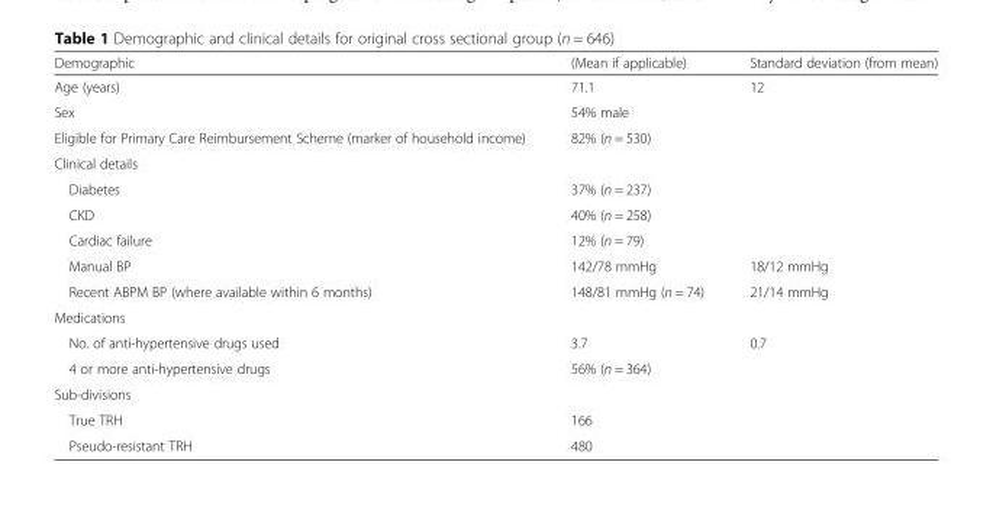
<table><thead><tr><td>Demographic</td><td>(Mean if applicable)</td><td>Standard deviation (from mean)</td></tr></thead><tbody><tr><td>Age (years)</td><td>71.1</td><td>12</td></tr><tr><td>Sex</td><td>54% male</td><td></td></tr><tr><td>Eligible for Primary Care Reimbursement Scheme (marker of household income)</td><td>82% (n = 530)</td><td></td></tr><tr><td colspan="3">Clinical details</td></tr><tr><td>Diabetes</td><td>37% (n = 237)</td><td></td></tr><tr><td>CKD</td><td>40% (n = 258)</td><td></td></tr><tr><td>Cardiac failure</td><td>12% (n = 79)</td><td></td></tr><tr><td>Manual BP</td><td>142/78 mmHg</td><td>18/12 mmHg</td></tr><tr><td>Recent ABPM BP (where available within 6 months)</td><td>148/81 mmHg (n = 74)</td><td>21/14 mmHg</td></tr><tr><td colspan="3">Medications</td></tr><tr><td>No. of anti-hypertensive drugs used</td><td>3.7</td><td>0.7</td></tr><tr><td>4 or more anti-hypertensive drugs</td><td>56% (n = 364)</td><td></td></tr><tr><td colspan="3">Sub-divisions</td></tr><tr><td>True TRH</td><td>166</td><td></td></tr><tr><td>Pseudo-resistant TRH</td><td>480</td><td></td></tr></tbody></table>